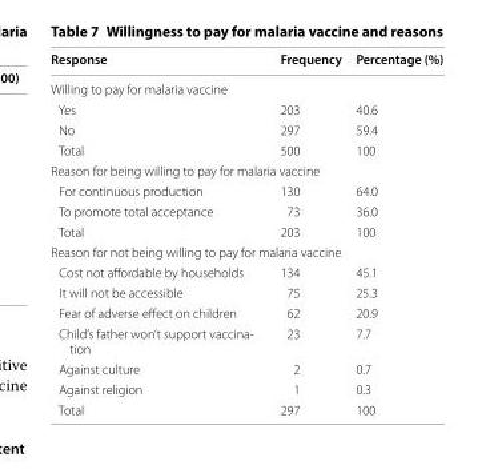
<table><thead><tr><td>Response</td><td>Frequency</td><td>Percentage (%)</td></tr></thead><tbody><tr><td colspan="3">Willing to pay for malaria vaccine</td></tr><tr><td>Yes</td><td>203</td><td>40.6</td></tr><tr><td>No</td><td>297</td><td>59.4</td></tr><tr><td>Total</td><td>500</td><td>100</td></tr><tr><td colspan="3">Reason for being willing to pay for malaria vaccine</td></tr><tr><td>For continuous production</td><td>130</td><td>64.0</td></tr><tr><td>To promote total acceptance</td><td>73</td><td>36.0</td></tr><tr><td>Total</td><td>203</td><td>100</td></tr><tr><td colspan="3">Reason for not being willing to pay for malaria vaccine</td></tr><tr><td>Cost not affordable by households</td><td>134</td><td>45.1</td></tr><tr><td>It will not be accessible</td><td>75</td><td>25.3</td></tr><tr><td>Fear of adverse effect on children</td><td>62</td><td>20.9</td></tr><tr><td>Child’s father won’t support vaccina- tion</td><td>23</td><td>7.7</td></tr><tr><td>Against culture</td><td>2</td><td>0.7</td></tr><tr><td>Against religion</td><td>1</td><td>0.3</td></tr><tr><td>Total</td><td>297</td><td>100</td></tr></tbody></table>